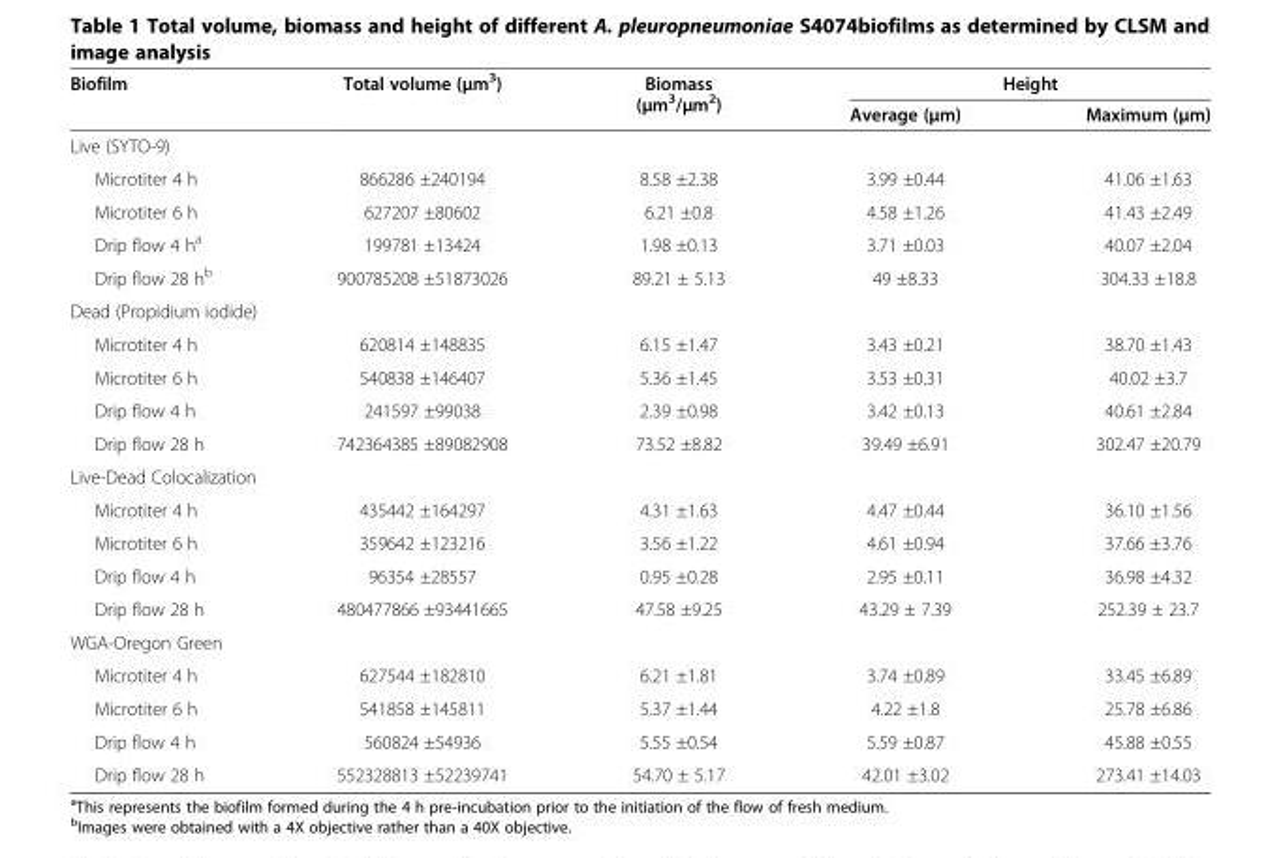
<table><thead><tr><td rowspan="2">Biofilm</td><td rowspan="2">Total volume (μm<sup>3</sup>)</td><td rowspan="2">Biomass (μm<sup>3</sup>/μm<sup>2</sup>)</td><td colspan="2">Height</td></tr><tr><td>Average (μm)</td><td>Maximum (μm)</td></tr></thead><tbody><tr><td colspan="5">Live (SYTO-9)</td></tr><tr><td>Microtiter 4 h</td><td>866286 ±240194</td><td>8.58 ±2.38</td><td>3.99 ±0.44</td><td>41.06 ±1.63</td></tr><tr><td>Microtiter 6 h</td><td>627207 ±80602</td><td>6.21 ±0.8</td><td>4.58 ±1.26</td><td>41.43 ±2.49</td></tr><tr><td>Drip flow 4 h<sup>a</sup></td><td>199781 ±13424</td><td>1.98 ±0.13</td><td>3.71 ±0.03</td><td>40.07 ±2.04</td></tr><tr><td>Drip flow 28 h<sup>b</sup></td><td>900785208 ±51873026</td><td>89.21 ± 5.13</td><td>49 ±8.33</td><td>304.33 ±18.8</td></tr><tr><td colspan="5">Dead (Propidium iodide)</td></tr><tr><td>Microtiter 4 h</td><td>620814 ±148835</td><td>6.15 ±1.47</td><td>3.43 ±0.21</td><td>38.70 ±1.43</td></tr><tr><td>Microtiter 6 h</td><td>540838 ±146407</td><td>5.36 ±1.45</td><td>3.53 ±0.31</td><td>40.02 ±3.7</td></tr><tr><td>Drip flow 4 h</td><td>241597 ±99038</td><td>2.39 ±0.98</td><td>3.42 ±0.13</td><td>40.61 ±2.84</td></tr><tr><td>Drip flow 28 h</td><td>742364385 ±89082908</td><td>73.52 ±8.82</td><td>39.49 ±6.91</td><td>302.47 ±20.79</td></tr><tr><td colspan="5">Live-Dead Colocalization</td></tr><tr><td>Microtiter 4 h</td><td>435442 ±164297</td><td>4.31 ±1.63</td><td>4.47 ±0.44</td><td>36.10 ±1.56</td></tr><tr><td>Microtiter 6 h</td><td>359642 ±123216</td><td>3.56 ±1.22</td><td>4.61 ±0.94</td><td>37.66 ±3.76</td></tr><tr><td>Drip flow 4 h</td><td>96354 ±28557</td><td>0.95 ±0.28</td><td>2.95 ±0.11</td><td>36.98 ±4.32</td></tr><tr><td>Drip flow 28 h</td><td>480477866 ±93441665</td><td>47.58 ±9.25</td><td>43.29 ± 7.39</td><td>252.39 ± 23.7</td></tr><tr><td colspan="5">WGA-Oregon Green</td></tr><tr><td>Microtiter 4 h</td><td>627544 ±182810</td><td>6.21 ±1.81</td><td>3.74 ±0.89</td><td>33.45 ±6.89</td></tr><tr><td>Microtiter 6 h</td><td>541858 ±145811</td><td>5.37 ±1.44</td><td>4.22 ±1.8</td><td>25.78 ±6.86</td></tr><tr><td>Drip flow 4 h</td><td>560824 ±54936</td><td>5.55 ±0.54</td><td>5.59 ±0.87</td><td>45.88 ±0.55</td></tr><tr><td>Drip flow 28 h</td><td>552328813 ±52239741</td><td>54.70 ± 5.17</td><td>42.01 ±3.02</td><td>273.41 ±14.03</td></tr></tbody></table>